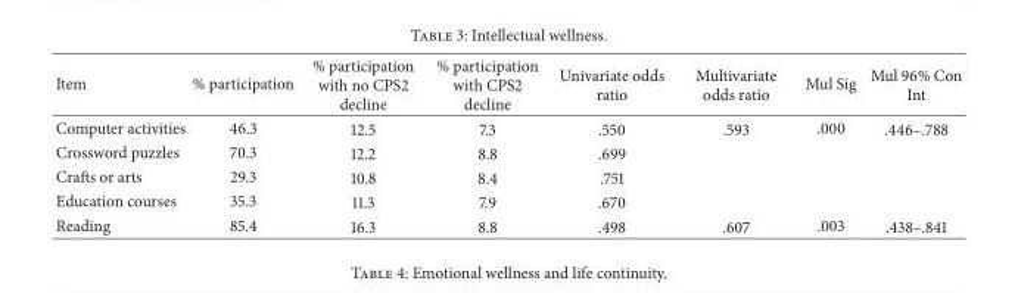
<table><thead><tr><td>Item</td><td>% participation</td><td>% participation with no CPS2 decline</td><td>% participation with CPS2 decline</td><td>Univariate odds ratio</td><td>Multivariate odds ratio</td><td>Mul Sig</td><td>Mul 96% Con Int</td></tr></thead><tbody><tr><td>Computer activities</td><td>46.3</td><td>12.5</td><td>7.3</td><td>.550</td><td>.593</td><td>.000</td><td>.446–.788</td></tr><tr><td>Crossword puzzles</td><td>70.3</td><td>12.2</td><td>8.8</td><td>.699</td><td></td><td></td><td></td></tr><tr><td>Crafts or arts</td><td>29.3</td><td>10.8</td><td>8.4</td><td>.751</td><td></td><td></td><td></td></tr><tr><td>Education courses</td><td>35.3</td><td>11.3</td><td>7.9</td><td>.670</td><td></td><td></td><td></td></tr><tr><td>Reading</td><td>85.4</td><td>16.3</td><td>8.8</td><td>.498</td><td>.607</td><td>.003</td><td>.438–.841</td></tr></tbody></table>